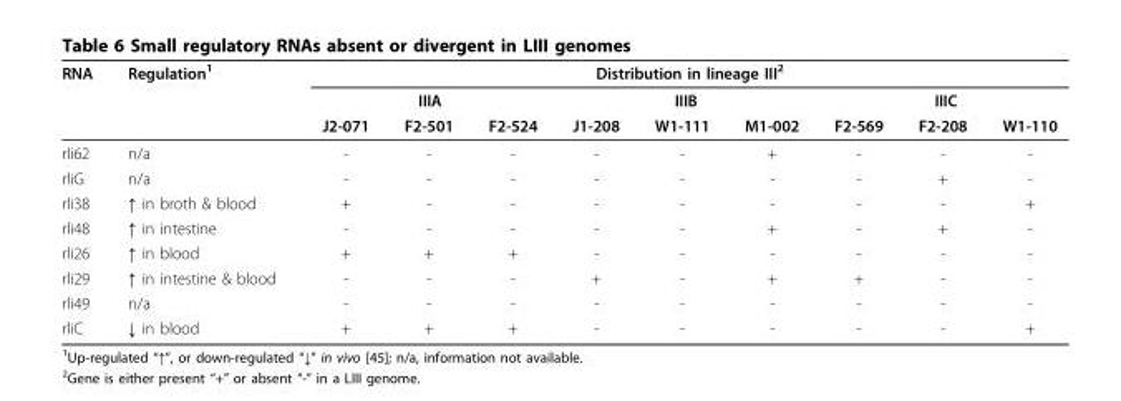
<table><thead><tr><td rowspan="3">RNA</td><td rowspan="3">Regulation<sup>1</sup></td><td colspan="9">Distribution in lineage III<sup>2</sup></td></tr><tr><td colspan="3">IIIA</td><td colspan="3">IIIB</td><td colspan="3">IIIC</td></tr><tr><td>J2-071</td><td>F2-501</td><td>F2-524</td><td>J1-208</td><td>W1-111</td><td>M1-002</td><td>F2-569</td><td>F2-208</td><td>W1-110</td></tr></thead><tbody><tr><td>rli62</td><td>n/a</td><td>-</td><td>-</td><td>-</td><td>-</td><td>-</td><td>+</td><td>-</td><td>-</td><td>-</td></tr><tr><td>rliG</td><td>n/a</td><td>-</td><td>-</td><td>-</td><td>-</td><td>-</td><td>-</td><td>-</td><td>+</td><td>-</td></tr><tr><td>rli38</td><td>↑ in broth &amp; blood</td><td>+</td><td>-</td><td>-</td><td>-</td><td>-</td><td>-</td><td>-</td><td>-</td><td>+</td></tr><tr><td>rli48</td><td>↑ in intestine</td><td>-</td><td>-</td><td>-</td><td>-</td><td>-</td><td>+</td><td>-</td><td>+</td><td>-</td></tr><tr><td>rli26</td><td>↑ in blood</td><td>+</td><td>+</td><td>+</td><td>-</td><td>-</td><td>-</td><td>-</td><td>-</td><td>-</td></tr><tr><td>rli29</td><td>↑ in intestine &amp; blood</td><td>-</td><td>-</td><td>-</td><td>+</td><td>-</td><td>+</td><td>+</td><td>-</td><td>-</td></tr><tr><td>rli49</td><td>n/a</td><td>-</td><td>-</td><td>-</td><td>-</td><td>-</td><td>-</td><td>-</td><td>-</td><td>-</td></tr><tr><td>rliC</td><td>↓ in blood</td><td>+</td><td>+</td><td>+</td><td>-</td><td>-</td><td>-</td><td>-</td><td>-</td><td>+</td></tr></tbody></table>